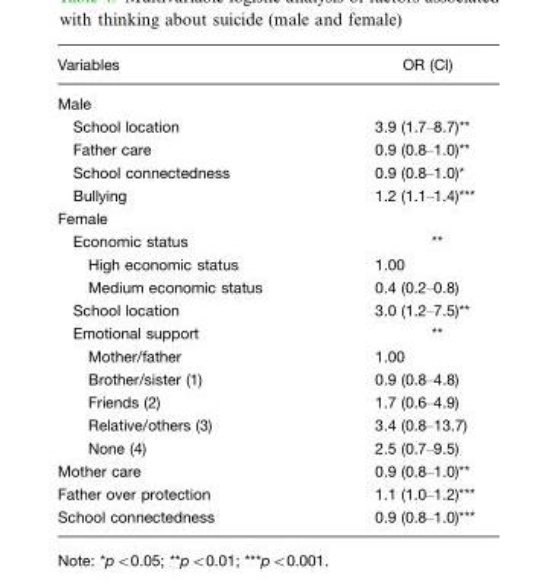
<table><thead><tr><td>Variables</td><td>OR (CI)</td></tr></thead><tbody><tr><td colspan="2">Male</td></tr><tr><td>School location</td><td>3.9 (1.7–8.7)**</td></tr><tr><td>Father care</td><td>0.9 (0.8–1.0)**</td></tr><tr><td>School connectedness</td><td>0.9 (0.8–1.0)*</td></tr><tr><td>Bullying</td><td>1.2 (1.1–1.4)***</td></tr><tr><td colspan="2">Female</td></tr><tr><td>Economic status</td><td>**</td></tr><tr><td>High economic status</td><td>1.00</td></tr><tr><td>Medium economic status</td><td>0.4 (0.2–0.8)</td></tr><tr><td>School location</td><td>3.0 (1.2–7.5)**</td></tr><tr><td>Emotional support</td><td>**</td></tr><tr><td>Mother/father</td><td>1.00</td></tr><tr><td>Brother/sister (1)</td><td>0.9 (0.8–4.8)</td></tr><tr><td>Friends (2)</td><td>1.7 (0.6–4.9)</td></tr><tr><td>Relative/others (3)</td><td>3.4 (0.8–13.7)</td></tr><tr><td>None (4)</td><td>2.5 (0.7–9.5)</td></tr><tr><td>Mother care</td><td>0.9 (0.8–1.0)**</td></tr><tr><td>Father over protection</td><td>1.1 (1.0–1.2)***</td></tr><tr><td>School connectedness</td><td>0.9 (0.8–1.0)***</td></tr></tbody></table>